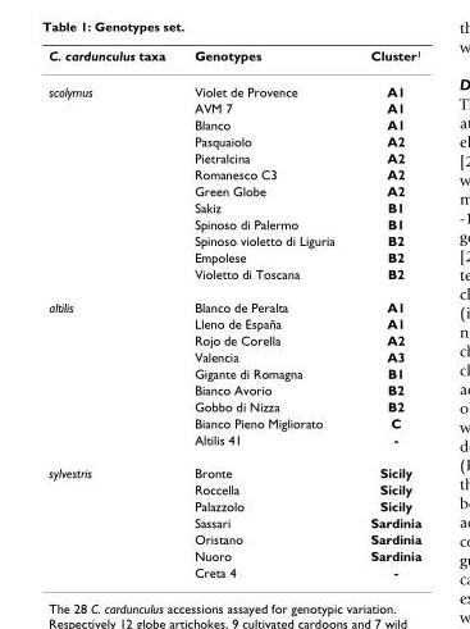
<table><thead><tr><td>C. cardunculus taxa</td><td>Genotypes</td><td>Cluster<sup>1</sup></td></tr></thead><tbody><tr><td rowspan="12">scolymus</td><td>Violet de Provence</td><td>A1</td></tr><tr><td>AVM 7</td><td>A1</td></tr><tr><td>Blanco</td><td>A1</td></tr><tr><td>Pasquaiolo</td><td>A2</td></tr><tr><td>Pietralcina</td><td>A2</td></tr><tr><td>Romanesco C3</td><td>A2</td></tr><tr><td>Green Globe</td><td>A2</td></tr><tr><td>Sakiz</td><td>B1</td></tr><tr><td>Spinoso di Palermo</td><td>B1</td></tr><tr><td>Spinoso violetto di Liguria</td><td>B2</td></tr><tr><td>Empolese</td><td>B2</td></tr><tr><td>Violetto di Toscana</td><td>B2</td></tr><tr><td rowspan="9">altilis</td><td>Blanco de Peralta</td><td>A1</td></tr><tr><td>Lleno de España</td><td>A1</td></tr><tr><td>Rojo de Corella</td><td>A2</td></tr><tr><td>Valencia</td><td>A3</td></tr><tr><td>Gigante di Romagna</td><td>B1</td></tr><tr><td>Bianco Avorio</td><td>B2</td></tr><tr><td>Gobbo di Nizza</td><td>B2</td></tr><tr><td>Bianco Pieno Migliorato</td><td>C</td></tr><tr><td>Altilis 41</td><td>-</td></tr><tr><td rowspan="7">sylvestris</td><td>Bronte</td><td>Sicily</td></tr><tr><td>Roccella</td><td>Sicily</td></tr><tr><td>Palazzolo</td><td>Sicily</td></tr><tr><td>Sassari</td><td>Sardinia</td></tr><tr><td>Oristano</td><td>Sardinia</td></tr><tr><td>Nuoro</td><td>Sardinia</td></tr><tr><td>Creta 4</td><td>-</td></tr></tbody></table>